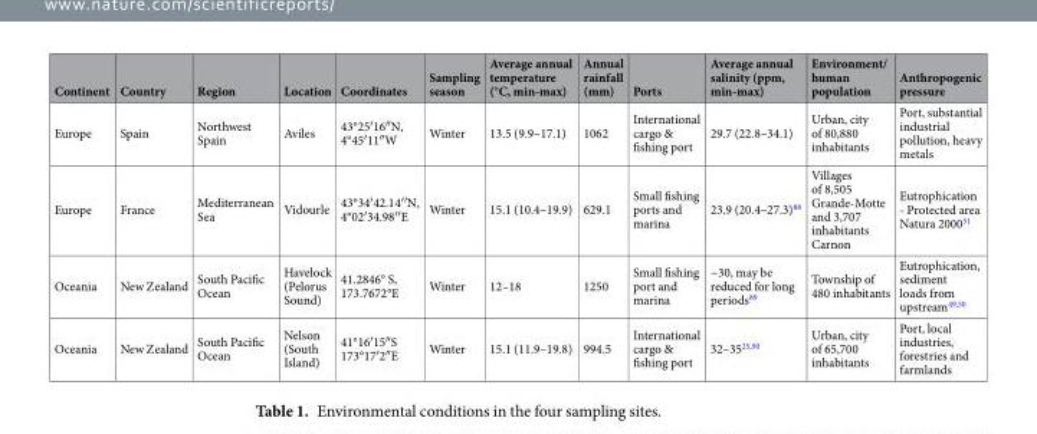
<table><thead><tr><td>Continent</td><td>Country</td><td>Region</td><td>Location</td><td>Coordinates</td><td>Sampling season</td><td>Average annual temperature (°C, min-max)</td><td>Annual rainfall (mm)</td><td>Ports</td><td>Average annual salinity (ppm, min-max)</td><td>Environment/ human population</td><td>Anthropogenic pressure</td></tr></thead><tbody><tr><td>Europe</td><td>Spain</td><td>Northwest Spain</td><td>Aviles</td><td>43°25′16″N, 4°45′11″W</td><td>Winter</td><td>13.5 (9.9–17.1)</td><td>1062</td><td>International cargo &amp; fishing port</td><td>29.7 (22.8–34.1)</td><td>Urban, city of 80,880 inhabitants</td><td>Port, substantial industrial pollution, heavy metals</td></tr><tr><td>Europe</td><td>France</td><td>Mediterranean Sea</td><td>Vidourle</td><td>43°34′42.14′′N, 4°02′34.98′′E</td><td>Winter</td><td>15.1 (10.4–19.9)</td><td>629.1</td><td>Small fishing ports and marina</td><td>23.9 (20.4–27.3)<sup>88</sup></td><td>Villages of 8,505 Grande-Motte and 3,707 inhabitants Carnon</td><td>Eutrophication - Protected area Natura 2000<sup>51</sup></td></tr><tr><td>Oceania</td><td>New Zealand</td><td>South Pacific Ocean</td><td>Havelock (Pelorus Sound)</td><td>41.2846° S, 173.7672°E</td><td>Winter</td><td>12–18</td><td>1250</td><td>Small fishing port and marina</td><td>~30, may be reduced for long periods<sup>89</sup></td><td>Township of 480 inhabitants</td><td>Eutrophication, sediment loads from upstream<sup>49,50</sup></td></tr><tr><td>Oceania</td><td>New Zealand</td><td>South Pacific Ocean</td><td>Nelson (South Island)</td><td>41°16′15″S 173°17′2″E</td><td>Winter</td><td>15.1 (11.9–19.8)</td><td>994.5</td><td>International cargo &amp; fishing port</td><td>32–35<sup>25,90</sup></td><td>Urban, city of 65,700 inhabitants</td><td>Port, local industries, forestries and farmlands</td></tr></tbody></table>